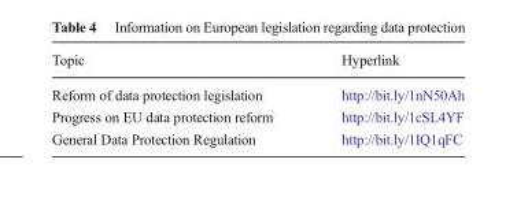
<table><thead><tr><td>Topic</td><td>Hyperlink</td></tr></thead><tbody><tr><td>Reform of data protection legislation</td><td>http://bit.ly/1nN50Ah</td></tr><tr><td>Progress on EU data protection reform</td><td>http://bit.ly/1cSL4YF</td></tr><tr><td>General Data Protection Regulation</td><td>http://bit.ly/1IQ1qFC</td></tr></tbody></table>